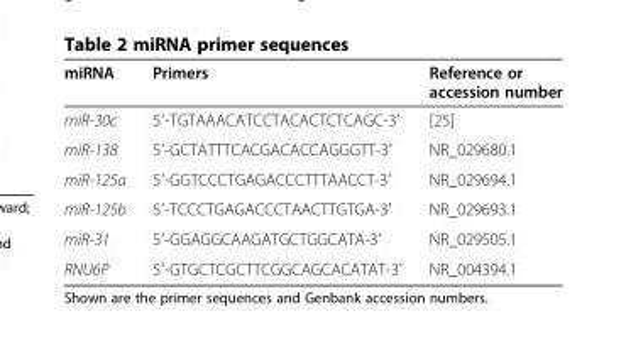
<table><thead><tr><td>miRNA</td><td>Primers</td><td>Reference or accession number</td></tr></thead><tbody><tr><td>miR-30c</td><td>5′-TGTAAACATCCTACACTCTCAGC-3′</td><td>[25]</td></tr><tr><td>miR-138</td><td>5′-GCTATTTCACGACACCAGGGTT-3′</td><td>NR_029680.1</td></tr><tr><td>miR-125a</td><td>5′-GGTCCCTGAGACCCTTTAACCT-3′</td><td>NR_029694.1</td></tr><tr><td>miR-125b</td><td>5′-TCCCTGAGACCCTAACTTGTGA-3′</td><td>NR_029693.1</td></tr><tr><td>miR-31</td><td>5′-GGAGGCAAGATGCTGGCATA-3′</td><td>NR_029505.1</td></tr><tr><td>RNU6P</td><td>5′-GTGCTCGCTTCGGCAGCACATAT-3′</td><td>NR_004394.1</td></tr></tbody></table>